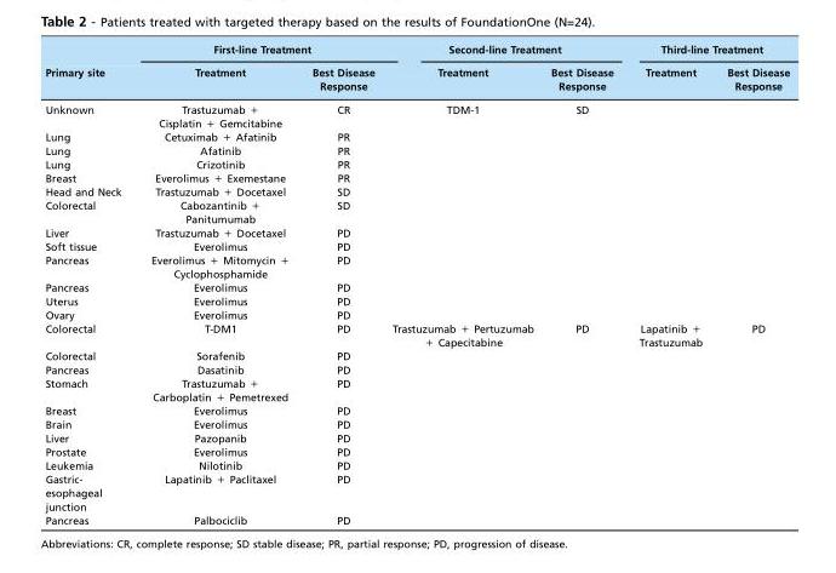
<table><thead><tr><td rowspan="2">Primary site</td><td colspan="2">First-line Treatment</td><td colspan="2">Second-line Treatment</td><td colspan="2">Third-line Treatment</td></tr><tr><td>Treatment</td><td>Best Disease Response</td><td>Treatment</td><td>Best Disease Response</td><td>Treatment</td><td>Best Disease Response</td></tr></thead><tbody><tr><td>Unknown</td><td>Trastuzumab + Cisplatin + Gemcitabine</td><td>CR</td><td>TDM-1</td><td>SD</td><td></td><td></td></tr><tr><td>Lung</td><td>Cetuximab + Afatinib</td><td>PR</td><td></td><td></td><td></td><td></td></tr><tr><td>Lung</td><td>Afatinib</td><td>PR</td><td></td><td></td><td></td><td></td></tr><tr><td>Lung</td><td>Crizotinib</td><td>PR</td><td></td><td></td><td></td><td></td></tr><tr><td>Breast</td><td>Everolimus + Exemestane</td><td>PR</td><td></td><td></td><td></td><td></td></tr><tr><td>Head and Neck</td><td>Trastuzumab + Docetaxel</td><td>SD</td><td></td><td></td><td></td><td></td></tr><tr><td>Colorectal</td><td>Cabozantinib + Panitumumab</td><td>SD</td><td></td><td></td><td></td><td></td></tr><tr><td>Liver</td><td>Trastuzumab + Docetaxel</td><td>PD</td><td></td><td></td><td></td><td></td></tr><tr><td>Soft tissue</td><td>Everolimus</td><td>PD</td><td></td><td></td><td></td><td></td></tr><tr><td>Pancreas</td><td>Everolimus + Mitomycin + Cyclophosphamide</td><td>PD</td><td></td><td></td><td></td><td></td></tr><tr><td>Pancreas</td><td>Everolimus</td><td>PD</td><td></td><td></td><td></td><td></td></tr><tr><td>Uterus</td><td>Everolimus</td><td>PD</td><td></td><td></td><td></td><td></td></tr><tr><td>Ovary</td><td>Everolimus</td><td>PD</td><td></td><td></td><td></td><td></td></tr><tr><td>Colorectal</td><td>T-DM1</td><td>PD</td><td>Trastuzumab + Pertuzumab + Capecitabine</td><td>PD</td><td>Lapatinib + Trastuzumab</td><td>PD</td></tr><tr><td>Colorectal</td><td>Sorafenib</td><td>PD</td><td></td><td></td><td></td><td></td></tr><tr><td>Pancreas</td><td>Dasatinib</td><td>PD</td><td></td><td></td><td></td><td></td></tr><tr><td>Stomach</td><td>Trastuzumab + Carboplatin + Pemetrexed</td><td>PD</td><td></td><td></td><td></td><td></td></tr><tr><td>Breast</td><td>Everolimus</td><td>PD</td><td></td><td></td><td></td><td></td></tr><tr><td>Brain</td><td>Everolimus</td><td>PD</td><td></td><td></td><td></td><td></td></tr><tr><td>Liver</td><td>Pazopanib</td><td>PD</td><td></td><td></td><td></td><td></td></tr><tr><td>Prostate</td><td>Everolimus</td><td>PD</td><td></td><td></td><td></td><td></td></tr><tr><td>Leukemia</td><td>Nilotinib</td><td>PD</td><td></td><td></td><td></td><td></td></tr><tr><td>Gastric- esophageal junction</td><td>Lapatinib + Paclitaxel</td><td>PD</td><td></td><td></td><td></td><td></td></tr><tr><td>Pancreas</td><td>Palbociclib</td><td>PD</td><td></td><td></td><td></td><td></td></tr></tbody></table>